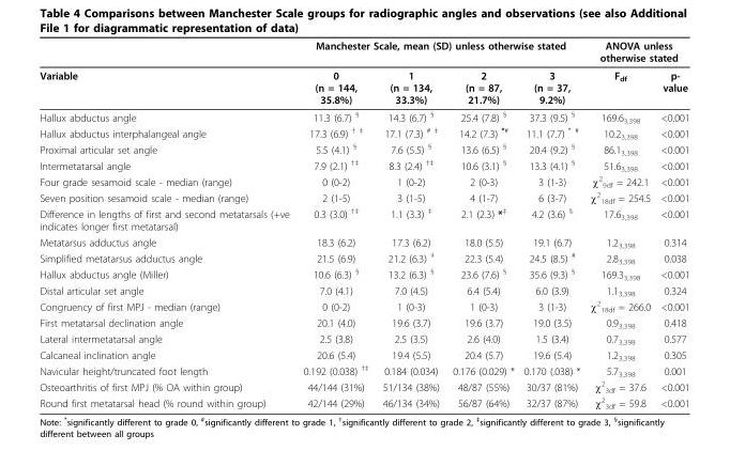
<table><thead><tr><td rowspan="2">Variable</td><td colspan="4">Manchester Scale, mean (SD) unless otherwise stated</td><td colspan="2">ANOVA unless otherwise stated</td></tr><tr><td>0 (n = 144, 35.8%)</td><td>1 (n = 134, 33.3%)</td><td>2 (n = 87, 21.7%)</td><td>3 (n = 37, 9.2%)</td><td>F<sub>df</sub></td><td>p- value</td></tr></thead><tbody><tr><td>Hallux abductus angle</td><td>11.3 (6.7) <sup>§</sup></td><td>14.3 (6.7) <sup>§</sup></td><td>25.4 (7.8) <sup>§</sup></td><td>37.3 (9.5) <sup>§</sup></td><td>169.6<sub>3,398</sub></td><td>&lt;0.001</td></tr><tr><td>Hallux abductus interphalangeal angle</td><td>17.3 (6.9) <sup>† ‡</sup></td><td>17.1 (7.3) <sup># ‡</sup></td><td>14.2 (7.3) <sup>*#</sup></td><td>11.1 (7.7) <sup>* #</sup></td><td>10.2<sub>3,398</sub></td><td>&lt;0.001</td></tr><tr><td>Proximal articular set angle</td><td>5.5 (4.1) <sup>§</sup></td><td>7.6 (5.5) <sup>§</sup></td><td>13.6 (6.5) <sup>§</sup></td><td>20.4 (9.2) <sup>§</sup></td><td>86.1<sub>3,398</sub></td><td>&lt;0.001</td></tr><tr><td>Intermetatarsal angle</td><td>7.9 (2.1) <sup>†‡</sup></td><td>8.3 (2.4) <sup>†‡</sup></td><td>10.6 (3.1) <sup>§</sup></td><td>13.3 (4.1) <sup>§</sup></td><td>51.6<sub>3,398</sub></td><td>&lt;0.001</td></tr><tr><td>Four grade sesamoid scale - median (range)</td><td>0 (0-2)</td><td>1 (0-2)</td><td>2 (0-3)</td><td>3 (1-3)</td><td>χ<sup>2</sup> <sub>9df</sub> = 242.1</td><td>&lt;0.001</td></tr><tr><td>Seven position sesamoid scale - median (range)</td><td>2 (1-5)</td><td>3 (1-5)</td><td>4 (1-7)</td><td>6 (3-7)</td><td>χ<sup>2</sup> <sub>18df</sub> = 254.5</td><td>&lt;0.001</td></tr><tr><td>Difference in lengths of first and second metatarsals (+ve indicates longer first metatarsal)</td><td>0.3 (3.0) <sup>†‡</sup></td><td>1.1 (3.3) <sup>‡</sup></td><td>2.1 (2.3) *<sup>‡</sup></td><td>4.2 (3.6) <sup>§</sup></td><td>17.6<sub>3,398</sub></td><td>&lt;0.001</td></tr><tr><td>Metatarsus adductus angle</td><td>18.3 (6.2)</td><td>17.3 (6.2)</td><td>18.0 (5.5)</td><td>19.1 (6.7)</td><td>1.2<sub>3,398</sub></td><td>0.314</td></tr><tr><td>Simplified metatarsus adductus angle</td><td>21.5 (6.9)</td><td>21.2 (6.3) <sup>‡</sup></td><td>22.3 (5.4)</td><td>24.5 (8.5) <sup>#</sup></td><td>2.8<sub>3,398</sub></td><td>0.038</td></tr><tr><td>Hallux abductus angle (Miller)</td><td>10.6 (6.3) <sup>§</sup></td><td>13.2 (6.3) <sup>§</sup></td><td>23.6 (7.6) <sup>§</sup></td><td>35.6 (9.3) <sup>§</sup></td><td>169.3<sub>3,398</sub></td><td>&lt;0.001</td></tr><tr><td>Distal articular set angle</td><td>7.0 (4.1)</td><td>7.0 (4.5)</td><td>6.4 (5.4)</td><td>6.0 (3.9)</td><td>1.1<sub>3,398</sub></td><td>0.324</td></tr><tr><td>Congruency of first MPJ - median (range)</td><td>0 (0-2)</td><td>1 (0-3)</td><td>1 (0-3)</td><td>3 (1-3)</td><td>χ<sup>2</sup> <sub>18df</sub> = 266.0</td><td>&lt;0.001</td></tr><tr><td>First metatarsal declination angle</td><td>20.1 (4.0)</td><td>19.6 (3.7)</td><td>19.6 (3.7)</td><td>19.0 (3.5)</td><td>0.9<sub>3,398</sub></td><td>0.418</td></tr><tr><td>Lateral intermetatarsal angle</td><td>2.5 (3.8)</td><td>2.5 (3.5)</td><td>2.6 (4.0)</td><td>1.5 (3.4)</td><td>0.7<sub>3,398</sub></td><td>0.577</td></tr><tr><td>Calcaneal inclination angle</td><td>20.6 (5.4)</td><td>19.4 (5.5)</td><td>20.4 (5.7)</td><td>19.6 (5.4)</td><td>1.2<sub>3,398</sub></td><td>0.305</td></tr><tr><td>Navicular height/truncated foot length</td><td>0.192 (0.038) <sup>†‡</sup></td><td>0.184 (0.034)</td><td>0.176 (0.029) *</td><td>0.170 (.038) *</td><td>5.7<sub>3,398</sub></td><td>0.001</td></tr><tr><td>Osteoarthritis of first MPJ (% OA within group)</td><td>44/144 (31%)</td><td>51/134 (38%)</td><td>48/87 (55%)</td><td>30/37 (81%)</td><td>χ<sup>2</sup> <sub>3df</sub> = 37.6</td><td>&lt;0.001</td></tr><tr><td>Round first metatarsal head (% round within group)</td><td>42/144 (29%)</td><td>46/134 (34%)</td><td>56/87 (64%)</td><td>32/37 (87%)</td><td>χ<sup>2</sup> <sub>3df</sub> = 59.8</td><td>&lt;0.001</td></tr></tbody></table>